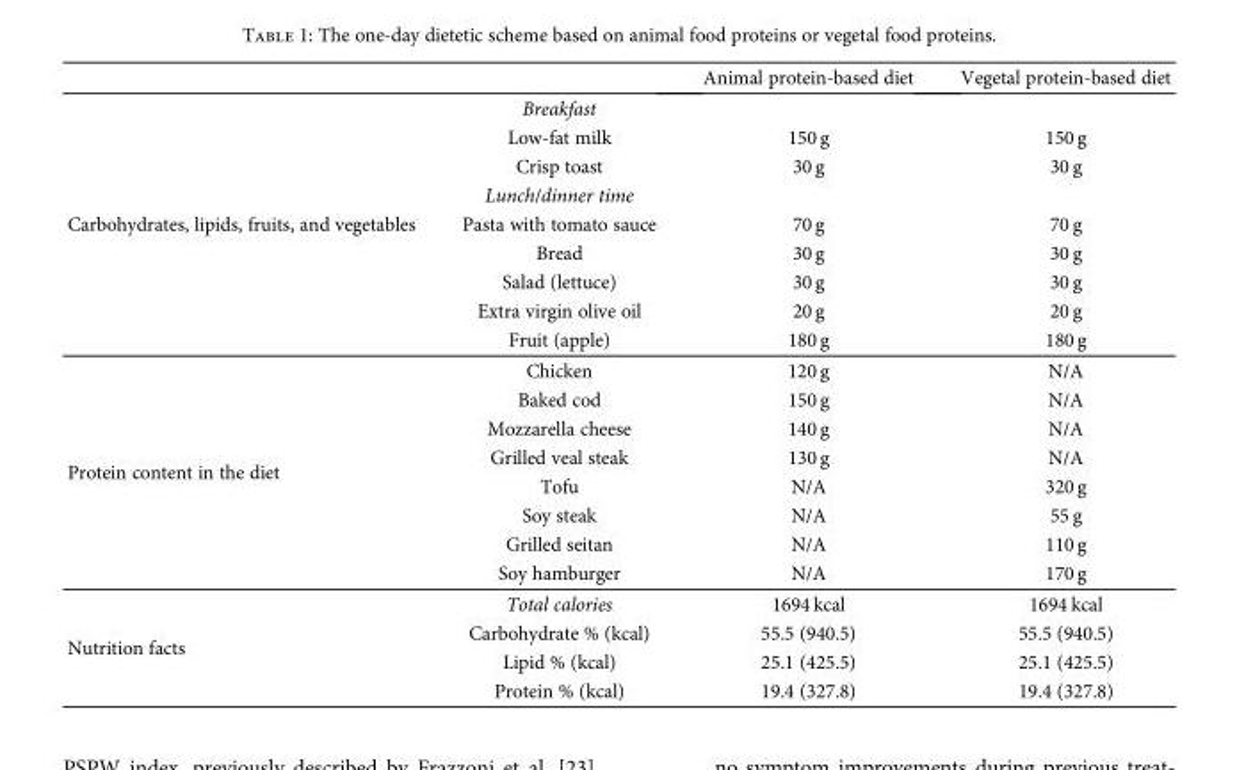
<table><thead><tr><td></td><td></td><td>Animal protein-based diet</td><td>Vegetal protein-based diet</td></tr></thead><tbody><tr><td rowspan="9">Carbohydrates, lipids, fruits, and vegetables</td><td>Breakfast</td><td></td><td></td></tr><tr><td>Low-fat milk</td><td>150 g</td><td>150 g</td></tr><tr><td>Crisp toast</td><td>30 g</td><td>30 g</td></tr><tr><td>Lunch/dinner time</td><td></td><td></td></tr><tr><td>Pasta with tomato sauce</td><td>70 g</td><td>70 g</td></tr><tr><td>Bread</td><td>30 g</td><td>30 g</td></tr><tr><td>Salad (lettuce)</td><td>30 g</td><td>30 g</td></tr><tr><td>Extra virgin olive oil</td><td>20 g</td><td>20 g</td></tr><tr><td>Fruit (apple)</td><td>180 g</td><td>180 g</td></tr><tr><td rowspan="8">Protein content in the diet</td><td>Chicken</td><td>120 g</td><td>N/A</td></tr><tr><td>Baked cod</td><td>150 g</td><td>N/A</td></tr><tr><td>Mozzarella cheese</td><td>140 g</td><td>N/A</td></tr><tr><td>Grilled veal steak</td><td>130 g</td><td>N/A</td></tr><tr><td>Tofu</td><td>N/A</td><td>320 g</td></tr><tr><td>Soy steak</td><td>N/A</td><td>55 g</td></tr><tr><td>Grilled seitan</td><td>N/A</td><td>110 g</td></tr><tr><td>Soy hamburger</td><td>N/A</td><td>170 g</td></tr><tr><td rowspan="4">Nutrition facts</td><td>Total calories</td><td>1694 kcal</td><td>1694 kcal</td></tr><tr><td>Carbohydrate % (kcal)</td><td>55.5 (940.5)</td><td>55.5 (940.5)</td></tr><tr><td>Lipid % (kcal)</td><td>25.1 (425.5)</td><td>25.1 (425.5)</td></tr><tr><td>Protein % (kcal)</td><td>19.4 (327.8)</td><td>19.4 (327.8)</td></tr></tbody></table>